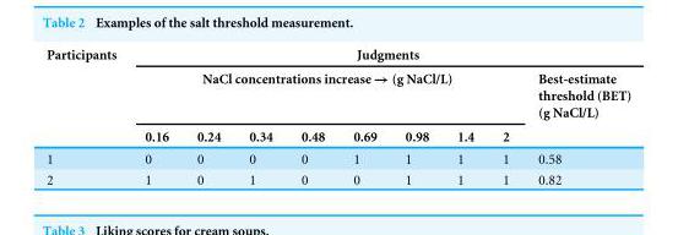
<table><thead><tr><td rowspan="3">Participants</td><td colspan="9">Judgments</td></tr><tr><td colspan="8">NaCl concentrations increase → (g NaCl/L)</td><td rowspan="2">Best-estimate threshold (BET) (g NaCl/L)</td></tr><tr><td>0.16</td><td>0.24</td><td>0.34</td><td>0.48</td><td>0.69</td><td>0.98</td><td>1.4</td><td>2</td></tr></thead><tbody><tr><td>1</td><td>0</td><td>0</td><td>0</td><td>0</td><td>1</td><td>1</td><td>1</td><td>1</td><td>0.58</td></tr><tr><td>2</td><td>1</td><td>0</td><td>1</td><td>0</td><td>0</td><td>1</td><td>1</td><td>1</td><td>0.82</td></tr></tbody></table>